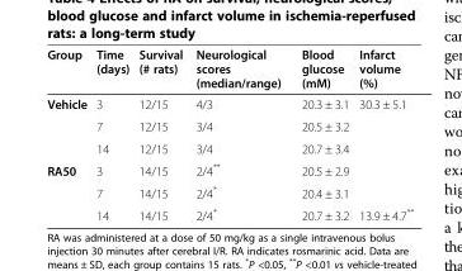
<table><thead><tr><td>Group</td><td>Time (days)</td><td>Survival (# rats)</td><td>Neurological scores (median/range)</td><td>Blood glucose (mM)</td><td>Infarct volume (%)</td></tr></thead><tbody><tr><td rowspan="3">Vehicle</td><td>3</td><td>12/15</td><td>4/3</td><td>20.3 ± 3.1</td><td rowspan="3">30.3 ± 5.1</td></tr><tr><td>7</td><td>12/15</td><td>3/4</td><td>20.5 ± 3.2</td></tr><tr><td>14</td><td>12/15</td><td>3/4</td><td>20.7 ± 3.4</td></tr><tr><td rowspan="3">RA50</td><td>3</td><td>14/15</td><td>2/4**</td><td>20.5 ± 2.9</td><td></td></tr><tr><td>7</td><td>14/15</td><td>2/4*</td><td>20.4 ± 3.1</td><td></td></tr><tr><td>14</td><td>14/15</td><td>2/4*</td><td>20.7 ± 3.2</td><td>13.9 ± 4.7**</td></tr></tbody></table>